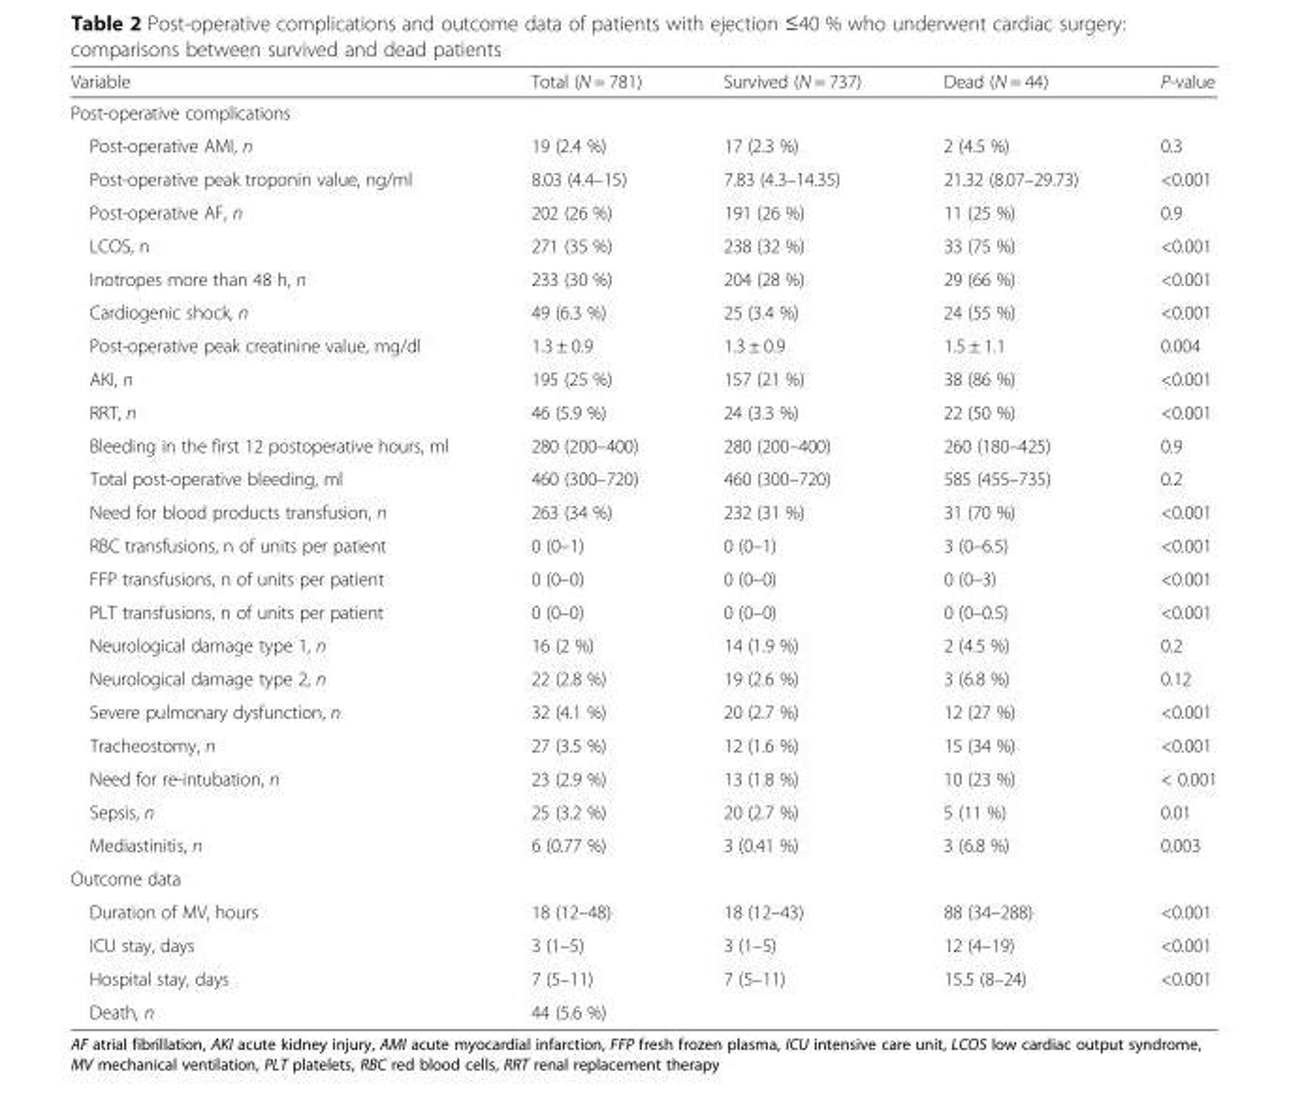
<table><thead><tr><td>Variable</td><td>Total (N = 781)</td><td>Survived (N = 737)</td><td>Dead (N = 44)</td><td>P-value</td></tr></thead><tbody><tr><td colspan="5">Post-operative complications</td></tr><tr><td>Post-operative AMI, n</td><td>19 (2.4 %)</td><td>17 (2.3 %)</td><td>2 (4.5 %)</td><td>0.3</td></tr><tr><td>Post-operative peak troponin value, ng/ml</td><td>8.03 (4.4–15)</td><td>7.83 (4.3–14.35)</td><td>21.32 (8.07–29.73)</td><td>&lt;0.001</td></tr><tr><td>Post-operative AF, n</td><td>202 (26 %)</td><td>191 (26 %)</td><td>11 (25 %)</td><td>0.9</td></tr><tr><td>LCOS, n</td><td>271 (35 %)</td><td>238 (32 %)</td><td>33 (75 %)</td><td>&lt;0.001</td></tr><tr><td>Inotropes more than 48 h, n</td><td>233 (30 %)</td><td>204 (28 %)</td><td>29 (66 %)</td><td>&lt;0.001</td></tr><tr><td>Cardiogenic shock, n</td><td>49 (6.3 %)</td><td>25 (3.4 %)</td><td>24 (55 %)</td><td>&lt;0.001</td></tr><tr><td>Post-operative peak creatinine value, mg/dl</td><td>1.3 ± 0.9</td><td>1.3 ± 0.9</td><td>1.5 ± 1.1</td><td>0.004</td></tr><tr><td>AKI, n</td><td>195 (25 %)</td><td>157 (21 %)</td><td>38 (86 %)</td><td>&lt;0.001</td></tr><tr><td>RRT, n</td><td>46 (5.9 %)</td><td>24 (3.3 %)</td><td>22 (50 %)</td><td>&lt;0.001</td></tr><tr><td>Bleeding in the first 12 postoperative hours, ml</td><td>280 (200–400)</td><td>280 (200–400)</td><td>260 (180–425)</td><td>0.9</td></tr><tr><td>Total post-operative bleeding, ml</td><td>460 (300–720)</td><td>460 (300–720)</td><td>585 (455–735)</td><td>0.2</td></tr><tr><td>Need for blood products transfusion, n</td><td>263 (34 %)</td><td>232 (31 %)</td><td>31 (70 %)</td><td>&lt;0.001</td></tr><tr><td>RBC transfusions, n of units per patient</td><td>0 (0–1)</td><td>0 (0–1)</td><td>3 (0–6.5)</td><td>&lt;0.001</td></tr><tr><td>FFP transfusions, n of units per patient</td><td>0 (0–0)</td><td>0 (0–0)</td><td>0 (0–3)</td><td>&lt;0.001</td></tr><tr><td>PLT transfusions, n of units per patient</td><td>0 (0–0)</td><td>0 (0–0)</td><td>0 (0–0.5)</td><td>&lt;0.001</td></tr><tr><td>Neurological damage type 1, n</td><td>16 (2 %)</td><td>14 (1.9 %)</td><td>2 (4.5 %)</td><td>0.2</td></tr><tr><td>Neurological damage type 2, n</td><td>22 (2.8 %)</td><td>19 (2.6 %)</td><td>3 (6.8 %)</td><td>0.12</td></tr><tr><td>Severe pulmonary dysfunction, n</td><td>32 (4.1 %)</td><td>20 (2.7 %)</td><td>12 (27 %)</td><td>&lt;0.001</td></tr><tr><td>Tracheostomy, n</td><td>27 (3.5 %)</td><td>12 (1.6 %)</td><td>15 (34 %)</td><td>&lt;0.001</td></tr><tr><td>Need for re-intubation, n</td><td>23 (2.9 %)</td><td>13 (1.8 %)</td><td>10 (23 %)</td><td>&lt; 0.001</td></tr><tr><td>Sepsis, n</td><td>25 (3.2 %)</td><td>20 (2.7 %)</td><td>5 (11 %)</td><td>0.01</td></tr><tr><td>Mediastinitis, n</td><td>6 (0.77 %)</td><td>3 (0.41 %)</td><td>3 (6.8 %)</td><td>0.003</td></tr><tr><td colspan="5">Outcome data</td></tr><tr><td>Duration of MV, hours</td><td>18 (12–48)</td><td>18 (12–43)</td><td>88 (34–288)</td><td>&lt;0.001</td></tr><tr><td>ICU stay, days</td><td>3 (1–5)</td><td>3 (1–5)</td><td>12 (4–19)</td><td>&lt;0.001</td></tr><tr><td>Hospital stay, days</td><td>7 (5–11)</td><td>7 (5–11)</td><td>15.5 (8–24)</td><td>&lt;0.001</td></tr><tr><td>Death, n</td><td>44 (5.6 %)</td><td></td><td></td><td></td></tr></tbody></table>